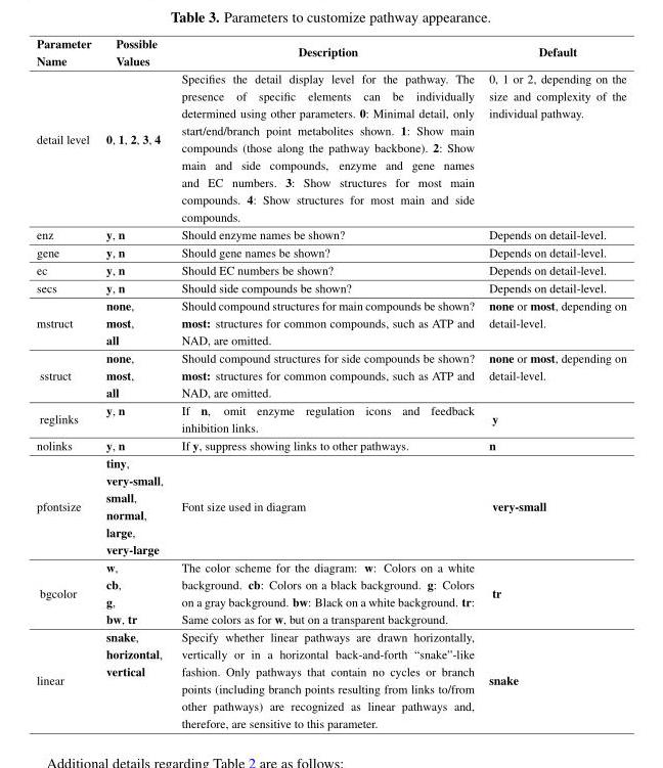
<table><thead><tr><td>Parameter Name</td><td>Possible Values</td><td>Description</td><td>Default</td></tr></thead><tbody><tr><td>detail level</td><td>0, 1, 2, 3, 4</td><td>Specifies the detail display level for the pathway. The presence of specific elements can be individually determined using other parameters. 0: Minimal detail, only start/end/branch point metabolites shown. 1: Show main compounds (those along the pathway backbone). 2: Show main and side compounds, enzyme and gene names and EC numbers. 3: Show structures for most main compounds. 4: Show structures for most main and side compounds.</td><td>0, 1 or 2, depending on the size and complexity of the individual pathway.</td></tr><tr><td>enz</td><td>y, n</td><td>Should enzyme names be shown?</td><td>Depends on detail-level.</td></tr><tr><td>gene</td><td>y, n</td><td>Should gene names be shown?</td><td>Depends on detail-level.</td></tr><tr><td>ec</td><td>y, n</td><td>Should EC numbers be shown?</td><td>Depends on detail-level.</td></tr><tr><td>secs</td><td>y, n</td><td>Should side compounds be shown?</td><td>Depends on detail-level.</td></tr><tr><td>mstruct</td><td>none, most, all</td><td>Should compound structures for main compounds be shown? most: structures for common compounds, such as ATP and NAD, are omitted.</td><td>none or most, depending on detail-level.</td></tr><tr><td>sstruct</td><td>none, most, all</td><td>Should compound structures for side compounds be shown? most: structures for common compounds, such as ATP and NAD, are omitted.</td><td>none or most, depending on detail-level.</td></tr><tr><td>reglinks</td><td>y, n</td><td>If n, omit enzyme regulation icons and feedback inhibition links.</td><td>y</td></tr><tr><td>nolinks</td><td>y, n</td><td>If y, suppress showing links to other pathways.</td><td>n</td></tr><tr><td>pfontsize</td><td>tiny, very-small, small, normal, large, very-large</td><td>Font size used in diagram</td><td>very-small</td></tr><tr><td>bgcolor</td><td>w, cb, g, bw, tr</td><td>The color scheme for the diagram: w: Colors on a white background. cb: Colors on a black background. g: Colors on a gray background. bw: Black on a white background. tr: Same colors as for w, but on a transparent background.</td><td>tr</td></tr><tr><td>linear</td><td>snake, horizontal, vertical</td><td>Specify whether linear pathways are drawn horizontally, vertically or in a horizontal back-and-forth “snake”-like fashion. Only pathways that contain no cycles or branch points (including branch points resulting from links to/from other pathways) are recognized as linear pathways and, therefore, are sensitive to this parameter.</td><td>snake</td></tr></tbody></table>